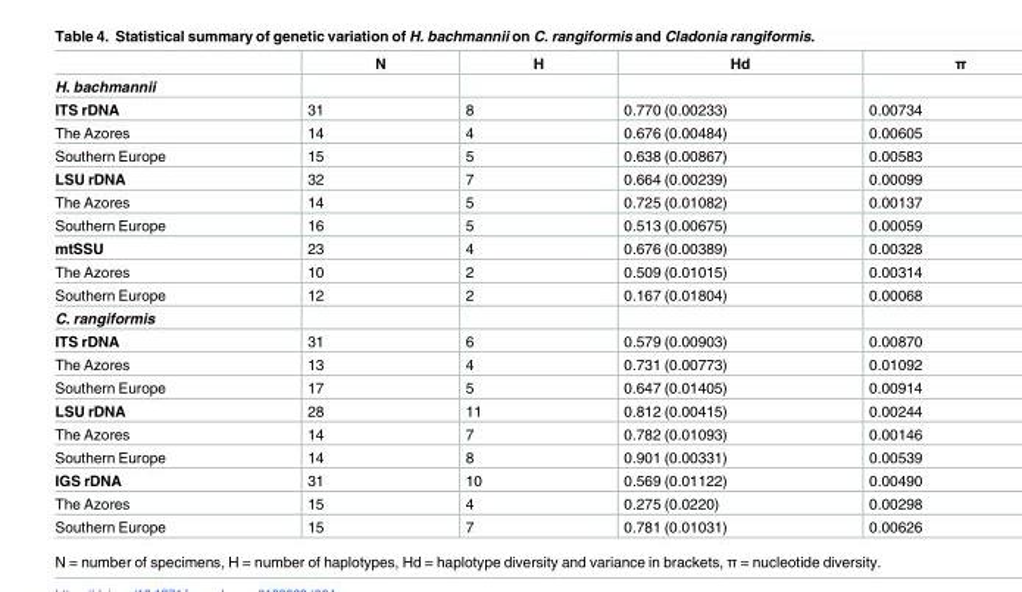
<table><thead><tr><td></td><td>N</td><td>H</td><td>Hd</td><td>π</td></tr></thead><tbody><tr><td colspan="5">H. bachmannii</td></tr><tr><td>ITS rDNA</td><td>31</td><td>8</td><td>0.770 (0.00233)</td><td>0.00734</td></tr><tr><td>The Azores</td><td>14</td><td>4</td><td>0.676 (0.00484)</td><td>0.00605</td></tr><tr><td>Southern Europe</td><td>15</td><td>5</td><td>0.638 (0.00867)</td><td>0.00583</td></tr><tr><td>LSU rDNA</td><td>32</td><td>7</td><td>0.664 (0.00239)</td><td>0.00099</td></tr><tr><td>The Azores</td><td>14</td><td>5</td><td>0.725 (0.01082)</td><td>0.00137</td></tr><tr><td>Southern Europe</td><td>16</td><td>5</td><td>0.513 (0.00675)</td><td>0.00059</td></tr><tr><td>mtSSU</td><td>23</td><td>4</td><td>0.676 (0.00389)</td><td>0.00328</td></tr><tr><td>The Azores</td><td>10</td><td>2</td><td>0.509 (0.01015)</td><td>0.00314</td></tr><tr><td>Southern Europe</td><td>12</td><td>2</td><td>0.167 (0.01804)</td><td>0.00068</td></tr><tr><td colspan="5">C. rangiformis</td></tr><tr><td>ITS rDNA</td><td>31</td><td>6</td><td>0.579 (0.00903)</td><td>0.00870</td></tr><tr><td>The Azores</td><td>13</td><td>4</td><td>0.731 (0.00773)</td><td>0.01092</td></tr><tr><td>Southern Europe</td><td>17</td><td>5</td><td>0.647 (0.01405)</td><td>0.00914</td></tr><tr><td>LSU rDNA</td><td>28</td><td>11</td><td>0.812 (0.00415)</td><td>0.00244</td></tr><tr><td>The Azores</td><td>14</td><td>7</td><td>0.782 (0.01093)</td><td>0.00146</td></tr><tr><td>Southern Europe</td><td>14</td><td>8</td><td>0.901 (0.00331)</td><td>0.00539</td></tr><tr><td>IGS rDNA</td><td>31</td><td>10</td><td>0.569 (0.01122)</td><td>0.00490</td></tr><tr><td>The Azores</td><td>15</td><td>4</td><td>0.275 (0.0220)</td><td>0.00298</td></tr><tr><td>Southern Europe</td><td>15</td><td>7</td><td>0.781 (0.01031)</td><td>0.00626</td></tr></tbody></table>